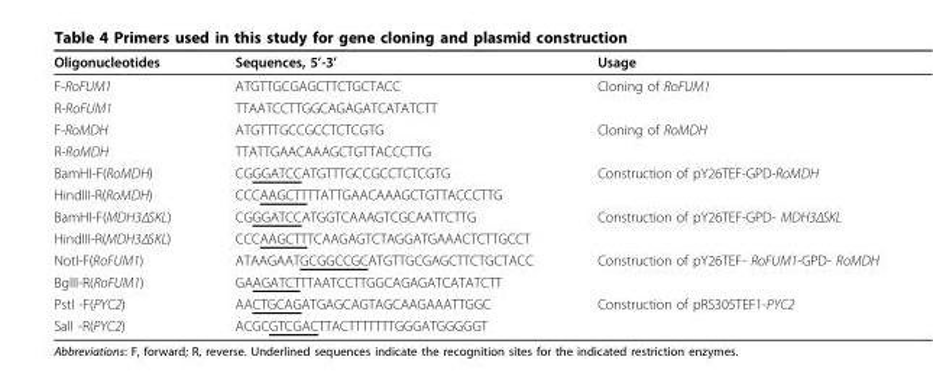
<table><thead><tr><td>Oligonucleotides</td><td>Sequences, 5’-3’</td><td>Usage</td></tr></thead><tbody><tr><td>F-RoFUM1</td><td>ATGTTGCGAGCTTCTGCTACC</td><td>Cloning of RoFUM1</td></tr><tr><td>R-RoFUM1</td><td>TTAATCCTTGGCAGAGATCATATCTT</td><td></td></tr><tr><td>F-RoMDH</td><td>ATGTTTGCCGCCTCTCGTG</td><td>Cloning of RoMDH</td></tr><tr><td>R-RoMDH</td><td>TTATTGAACAAAGCTGTTACCCTTG</td><td></td></tr><tr><td>BamHI-F(RoMDH)</td><td>CGGGATCCATGTTTGCCGCCTCTCGTG</td><td>Construction of pY26TEF-GPD-RoMDH</td></tr><tr><td>HindIII-R(RoMDH)</td><td>CCCAAGCTTTTATTGAACAAAGCTGTTACCCTTG</td><td></td></tr><tr><td>BamHI-F(MDH3ΔSKL)</td><td>CGGGATCCATGGTCAAAGTCGCAATTCTTG</td><td>Construction of pY26TEF-GPD- MDH3ΔSKL</td></tr><tr><td>HindIII-R(MDH3ΔSKL)</td><td>CCCAAGCTTTCAAGAGTCTAGGATGAAACTCTTGCCT</td><td></td></tr><tr><td>NotI-F(RoFUM1)</td><td>ATAAGAATGCGGCCGCATGTTGCGAGCTTCTGCTACC</td><td>Construction of pY26TEF- RoFUM1-GPD- RoMDH</td></tr><tr><td>BglII-R(RoFUM1)</td><td>GAAGATCTTTAATCCTTGGCAGAGATCATATCTT</td><td></td></tr><tr><td>PstI -F(PYC2)</td><td>AACTGCAGATGAGCAGTAGCAAGAAATTGGC</td><td>Construction of pRS305TEF1-PYC2</td></tr><tr><td>SalI -R(PYC2)</td><td>ACGCGTCGACTTACTTTTTTTGGGATGGGGGT</td><td></td></tr></tbody></table>